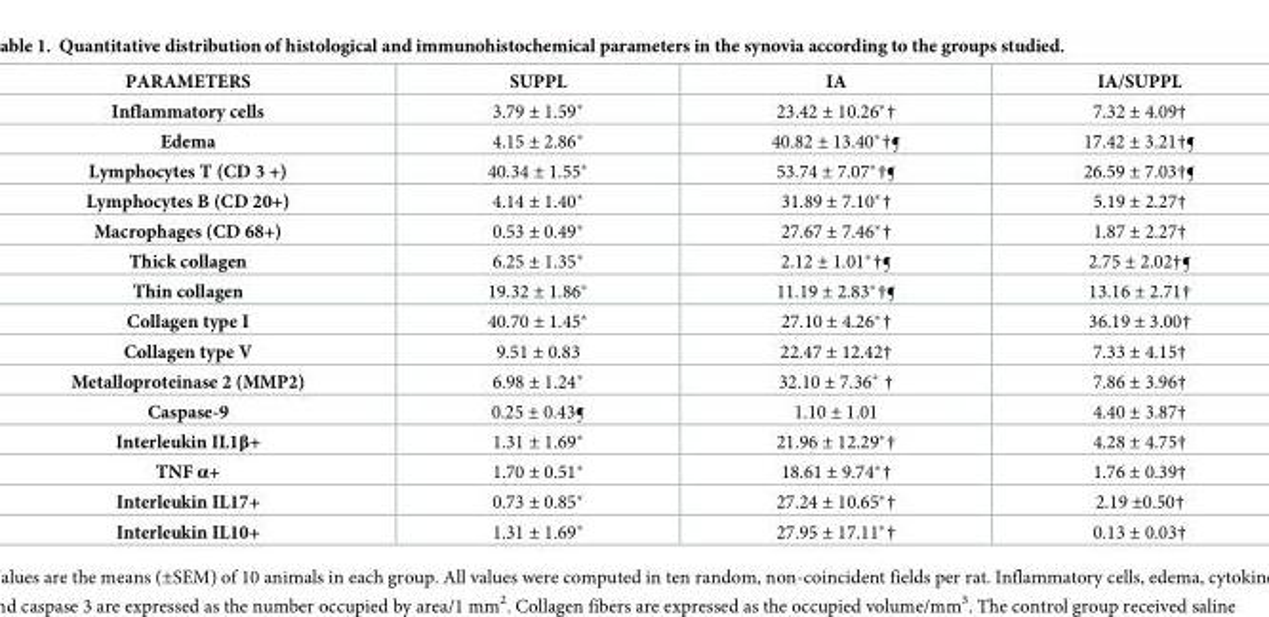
<table><thead><tr><td>PARAMETERS</td><td>SUPPL</td><td>IA</td><td>IA/SUPPL</td></tr></thead><tbody><tr><td>Inflammatory cells</td><td>3.79 ± 1.59*</td><td>23.42 ± 10.26*†</td><td>7.32 ± 4.09†</td></tr><tr><td>Edema</td><td>4.15 ± 2.86*</td><td>40.82 ± 13.40*†¶</td><td>17.42 ± 3.21†¶</td></tr><tr><td>Lymphocytes T (CD 3 +)</td><td>40.34 ± 1.55*</td><td>53.74 ± 7.07*†¶</td><td>26.59 ± 7.03†¶</td></tr><tr><td>Lymphocytes B (CD 20+)</td><td>4.14 ± 1.40*</td><td>31.89 ± 7.10*†</td><td>5.19 ± 2.27†</td></tr><tr><td>Macrophages (CD 68+)</td><td>0.53 ± 0.49*</td><td>27.67 ± 7.46*†</td><td>1.87 ± 2.27†</td></tr><tr><td>Thick collagen</td><td>6.25 ± 1.35*</td><td>2.12 ± 1.01*†¶</td><td>2.75 ± 2.02†¶</td></tr><tr><td>Thin collagen</td><td>19.32 ± 1.86*</td><td>11.19 ± 2.83*†¶</td><td>13.16 ± 2.71†</td></tr><tr><td>Collagen type I</td><td>40.70 ± 1.45*</td><td>27.10 ± 4.26*†</td><td>36.19 ± 3.00†</td></tr><tr><td>Collagen type V</td><td>9.51 ± 0.83</td><td>22.47 ± 12.42†</td><td>7.33 ± 4.15†</td></tr><tr><td>Metalloproteinase 2 (MMP2)</td><td>6.98 ± 1.24*</td><td>32.10 ± 7.36* †</td><td>7.86 ± 3.96†</td></tr><tr><td>Caspase-9</td><td>0.25 ± 0.43¶</td><td>1.10 ± 1.01</td><td>4.40 ± 3.87†</td></tr><tr><td>Interleukin IL1β+</td><td>1.31 ± 1.69*</td><td>21.96 ± 12.29*†</td><td>4.28 ± 4.75†</td></tr><tr><td>TNF α+</td><td>1.70 ± 0.51*</td><td>18.61 ± 9.74*†</td><td>1.76 ± 0.39†</td></tr><tr><td>Interleukin IL17+</td><td>0.73 ± 0.85*</td><td>27.24 ± 10.65*†</td><td>2.19 ±0.50†</td></tr><tr><td>Interleukin IL10+</td><td>1.31 ± 1.69*</td><td>27.95 ± 17.11*†</td><td>0.13 ± 0.03†</td></tr></tbody></table>